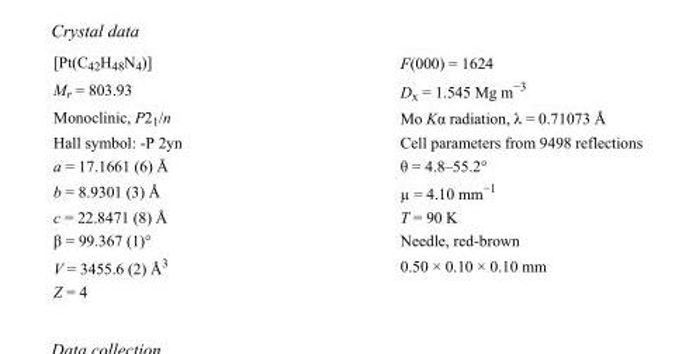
<table><tbody><tr><td>[Pt(C<sub>42</sub>H<sub>48</sub>N<sub>4</sub>)]</td><td>F(000) = 1624</td></tr><tr><td>M<sub>r</sub> = 803.93</td><td>D<sub>x</sub> = 1.545 Mg m<sup>−3</sup></td></tr><tr><td>Monoclinic, P2<sub>1</sub>/n</td><td>Mo Kα radiation, λ = 0.71073 Å</td></tr><tr><td>Hall symbol: -P 2yn</td><td>Cell parameters from 9498 reflections</td></tr><tr><td>a = 17.1661 (6) Å</td><td>θ = 4.8–55.2°</td></tr><tr><td>b = 8.9301 (3) Å</td><td>µ = 4.10 mm<sup>−1</sup></td></tr><tr><td>c = 22.8471 (8) Å</td><td>T = 90 K</td></tr><tr><td>β = 99.367 (1)°</td><td>Needle, red-brown</td></tr><tr><td>V = 3455.6 (2) Å<sup>3</sup></td><td>0.50 × 0.10 × 0.10 mm</td></tr><tr><td>Z = 4</td><td></td></tr></tbody></table>